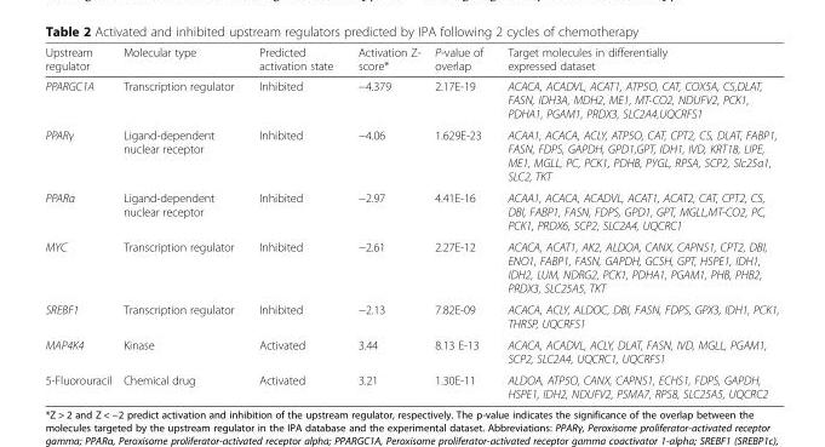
<table><thead><tr><td>Upstream regulator</td><td>Molecular type</td><td>Predicted activation state</td><td>Activation Z- score*</td><td>P-value of overlap</td><td>Target molecules in differentially expressed dataset</td></tr></thead><tbody><tr><td>PPARGC1A</td><td>Transcription regulator</td><td>Inhibited</td><td>−4.379</td><td>2.17E-19</td><td>ACACA, ACADVL, ACAT1, ATP5O, CAT, COX5A, CS,DLAT, FASN, IDH3A, MDH2, ME1, MT-CO2, NDUFV2, PCK1, PDHA1, PGAM1, PRDX3, SLC2A4,UQCRFS1</td></tr><tr><td>PPARγ</td><td>Ligand-dependent nuclear receptor</td><td>Inhibited</td><td>−4.06</td><td>1.629E-23</td><td>ACAA1, ACACA, ACLY, ATP5O, CAT, CPT2, CS, DLAT, FABP1, FASN, FDPS, GAPDH, GPD1,GPT, IDH1, IVD, KRT18, LIPE, ME1, MGLL, PC, PCK1, PDHB, PYGL, RPSA, SCP2, Slc25a1, SLC2, TKT</td></tr><tr><td>PPARα</td><td>Ligand-dependent nuclear receptor</td><td>Inhibited</td><td>−2.97</td><td>4.41E-16</td><td>ACAA1, ACACA, ACADVL, ACAT1, ACAT2, CAT, CPT2, CS, DBI, FABP1, FASN, FDPS, GPD1, GPT, MGLL,MT-CO2, PC, PCK1, PRDX6, SCP2, SLC2A4, UQCRC1</td></tr><tr><td>MYC</td><td>Transcription regulator</td><td>Inhibited</td><td>−2.61</td><td>2.27E-12</td><td>ACACA, ACAT1, AK2, ALDOA, CANX, CAPNS1, CPT2, DBI, ENO1, FABP1, FASN, GAPDH, GCSH, GPT, HSPE1, IDH1, IDH2, LUM, NDRG2, PCK1, PDHA1, PGAM1, PHB, PHB2, PRDX3, SLC25A5, TKT</td></tr><tr><td>SREBF1</td><td>Transcription regulator</td><td>Inhibited</td><td>−2.13</td><td>7.82E-09</td><td>ACACA, ACLY, ALDOC, DBI, FASN, FDPS, GPX3, IDH1, PCK1, THRSP, UQCRFS1</td></tr><tr><td>MAP4K4</td><td>Kinase</td><td>Activated</td><td>3.44</td><td>8.13 E-13</td><td>ACACA, ACADVL, ACLY, DLAT, FASN, IVD, MGLL, PGAM1, SCP2, SLC2A4, UQCRC1, UQCRFS1</td></tr><tr><td>5-Fluorouracil</td><td>Chemical drug</td><td>Activated</td><td>3.21</td><td>1.30E-11</td><td>ALDOA, ATP5O, CANX, CAPNS1, ECHS1, FDPS, GAPDH, HSPE1, IDH2, NDUFV2, PSMA7, RPS8, SLC25A5, UQCRC2</td></tr></tbody></table>